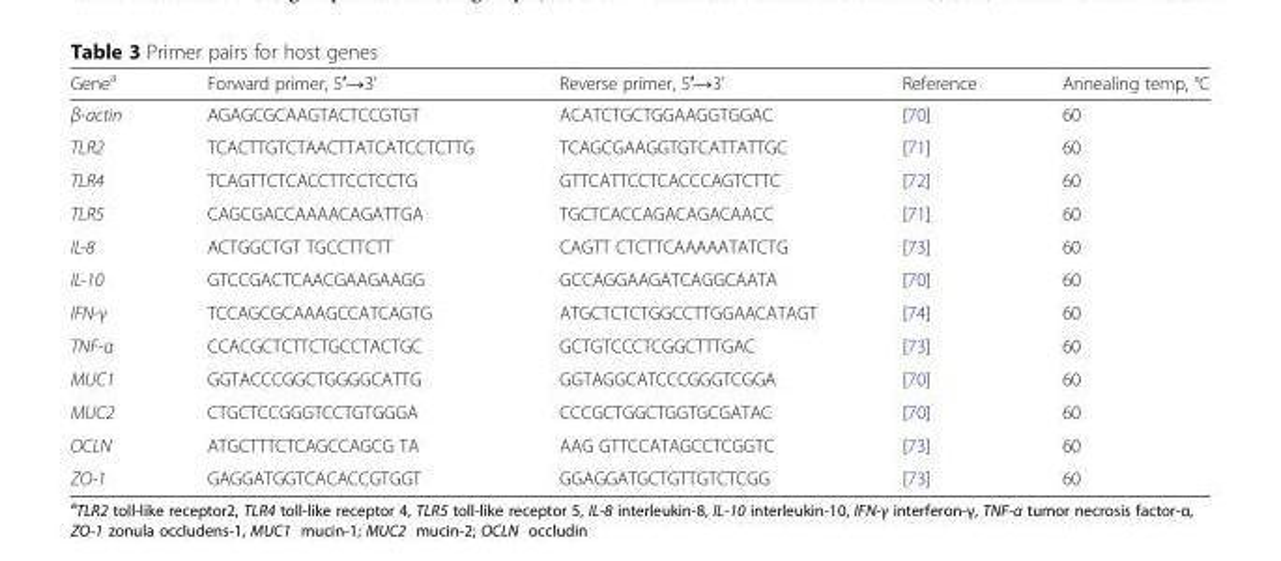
<table><thead><tr><td>Gene<sup>a</sup></td><td>Forward primer, 5′→3’</td><td>Reverse primer, 5′→3’</td><td>Reference</td><td>Annealing temp, °C</td></tr></thead><tbody><tr><td>β-actin</td><td>AGAGCGCAAGTACTCCGTGT</td><td>ACATCTGCTGGAAGGTGGAC</td><td>[70]</td><td>60</td></tr><tr><td>TLR2</td><td>TCACTTGTCTAACTTATCATCCTCTTG</td><td>TCAGCGAAGGTGTCATTATTGC</td><td>[71]</td><td>60</td></tr><tr><td>TLR4</td><td>TCAGTTCTCACCTTCCTCCTG</td><td>GTTCATTCCTCACCCAGTCTTC</td><td>[72]</td><td>60</td></tr><tr><td>TLR5</td><td>CAGCGACCAAAACAGATTGA</td><td>TGCTCACCAGACAGACAACC</td><td>[71]</td><td>60</td></tr><tr><td>IL-8</td><td>ACTGGCTGT TGCCTTCTT</td><td>CAGTT CTCTTCAAAAATATCTG</td><td>[73]</td><td>60</td></tr><tr><td>IL-10</td><td>GTCCGACTCAACGAAGAAGG</td><td>GCCAGGAAGATCAGGCAATA</td><td>[70]</td><td>60</td></tr><tr><td>IFN-γ</td><td>TCCAGCGCAAAGCCATCAGTG</td><td>ATGCTCTCTGGCCTTGGAACATAGT</td><td>[74]</td><td>60</td></tr><tr><td>TNF-α</td><td>CCACGCTCTTCTGCCTACTGC</td><td>GCTGTCCCTCGGCTTTGAC</td><td>[73]</td><td>60</td></tr><tr><td>MUC1</td><td>GGTACCCGGCTGGGGCATTG</td><td>GGTAGGCATCCCGGGTCGGA</td><td>[70]</td><td>60</td></tr><tr><td>MUC2</td><td>CTGCTCCGGGTCCTGTGGGA</td><td>CCCGCTGGCTGGTGCGATAC</td><td>[70]</td><td>60</td></tr><tr><td>OCLN</td><td>ATGCTTTCTCAGCCAGCG TA</td><td>AAG GTTCCATAGCCTCGGTC</td><td>[73]</td><td>60</td></tr><tr><td>ZO-1</td><td>GAGGATGGTCACACCGTGGT</td><td>GGAGGATGCTGTTGTCTCGG</td><td>[73]</td><td>60</td></tr></tbody></table>